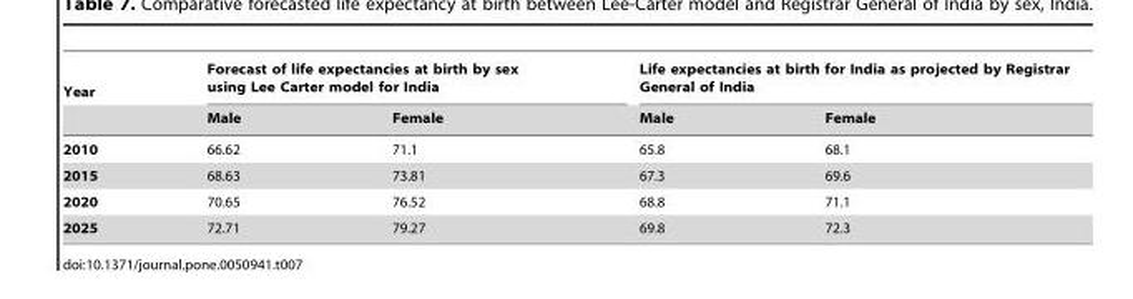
<table><thead><tr><td rowspan="2">Year</td><td colspan="2">Forecast of life expectancies at birth by sex using Lee Carter model for India</td><td colspan="2">Life expectancies at birth for India as projected by Registrar General of India</td></tr><tr><td>Male</td><td>Female</td><td>Male</td><td>Female</td></tr></thead><tbody><tr><td>2010</td><td>66.62</td><td>71.1</td><td>65.8</td><td>68.1</td></tr><tr><td>2015</td><td>68.63</td><td>73.81</td><td>67.3</td><td>69.6</td></tr><tr><td>2020</td><td>70.65</td><td>76.52</td><td>68.8</td><td>71.1</td></tr><tr><td>2025</td><td>72.71</td><td>79.27</td><td>69.8</td><td>72.3</td></tr></tbody></table>